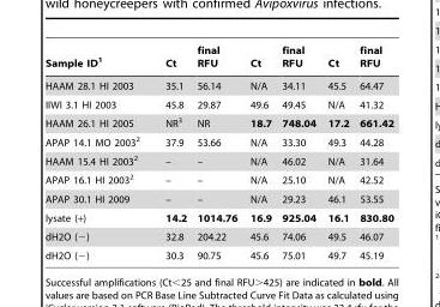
<table><thead><tr><td>Sample ID<sup>1</sup></td><td>Ct</td><td>final RFU</td><td>Ct</td><td>final RFU</td><td>Ct</td><td>final RFU</td></tr></thead><tbody><tr><td>HAAM 28.1 HI 2003</td><td>35.1</td><td>56.14</td><td>N/A</td><td>34.11</td><td>45.5</td><td>64.47</td></tr><tr><td>IIWI 3.1 HI 2003</td><td>45.8</td><td>29.87</td><td>49.6</td><td>49.45</td><td>N/A</td><td>41.32</td></tr><tr><td>HAAM 26.1 HI 2005</td><td>NR<sup>3</sup></td><td>NR</td><td>18.7</td><td>748.04</td><td>17.2</td><td>661.42</td></tr><tr><td>APAP 14.1 MO 2003<sup>2</sup></td><td>37.9</td><td>53.66</td><td>N/A</td><td>33.30</td><td>49.3</td><td>44.28</td></tr><tr><td>HAAM 15.4 HI 2003<sup>2</sup></td><td>–</td><td>–</td><td>N/A</td><td>46.02</td><td>N/A</td><td>31.64</td></tr><tr><td>APAP 16.1 HI 2003<sup>2</sup></td><td>–</td><td>–</td><td>N/A</td><td>25.10</td><td>N/A</td><td>42.52</td></tr><tr><td>APAP 30.1 HI 2009</td><td>–</td><td>–</td><td>N/A</td><td>29.23</td><td>46.1</td><td>53.55</td></tr><tr><td>lysate (+)</td><td>14.2</td><td>1014.76</td><td>16.9</td><td>925.04</td><td>16.1</td><td>830.80</td></tr><tr><td>dH2O (−)</td><td>32.8</td><td>204.22</td><td>45.6</td><td>74.06</td><td>49.5</td><td>46.07</td></tr><tr><td>dH2O (−)</td><td>30.3</td><td>90.75</td><td>45.6</td><td>75.01</td><td>49.7</td><td>45.19</td></tr></tbody></table>